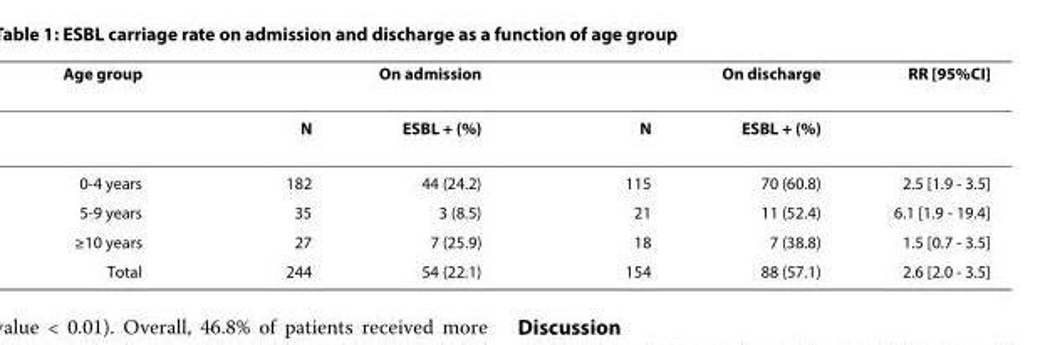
<table><thead><tr><td rowspan="2">Age group</td><td colspan="2">On admission</td><td colspan="2">On discharge</td><td rowspan="2">RR [95%CI]</td></tr><tr><td>N</td><td>ESBL + (%)</td><td>N</td><td>ESBL + (%)</td></tr></thead><tbody><tr><td>0-4 years</td><td>182</td><td>44 (24.2)</td><td>115</td><td>70 (60.8)</td><td>2.5 [1.9 - 3.5]</td></tr><tr><td>5-9 years</td><td>35</td><td>3 (8.5)</td><td>21</td><td>11 (52.4)</td><td>6.1 [1.9 - 19.4]</td></tr><tr><td>≥10 years</td><td>27</td><td>7 (25.9)</td><td>18</td><td>7 (38.8)</td><td>1.5 [0.7 - 3.5]</td></tr><tr><td>Total</td><td>244</td><td>54 (22.1)</td><td>154</td><td>88 (57.1)</td><td>2.6 [2.0 - 3.5]</td></tr></tbody></table>